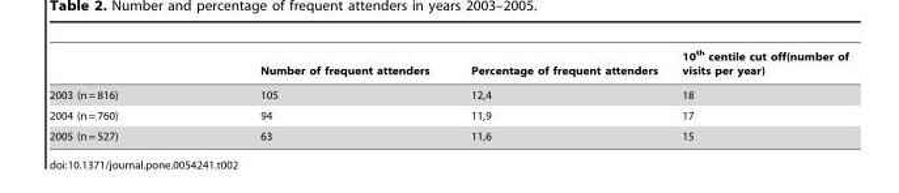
<table><thead><tr><td></td><td>Number of frequent attenders</td><td>Percentage of frequent attenders</td><td>10<sup>th</sup> centile cut off(number of visits per year)</td></tr></thead><tbody><tr><td>2003 (n = 816)</td><td>105</td><td>12,4</td><td>18</td></tr><tr><td>2004 (n = 760)</td><td>94</td><td>11,9</td><td>17</td></tr><tr><td>2005 (n = 527)</td><td>63</td><td>11,6</td><td>15</td></tr></tbody></table>